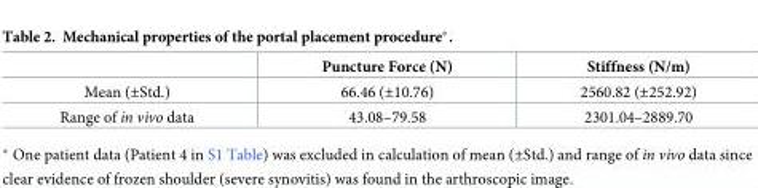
<table><thead><tr><td></td><td>Puncture Force (N)</td><td>Stiffness (N/m)</td></tr></thead><tbody><tr><td>Mean (±Std.)</td><td>66.46 (±10.76)</td><td>2560.82 (±252.92)</td></tr><tr><td>Range of in vivo data</td><td>43.08–79.58</td><td>2301.04–2889.70</td></tr></tbody></table>